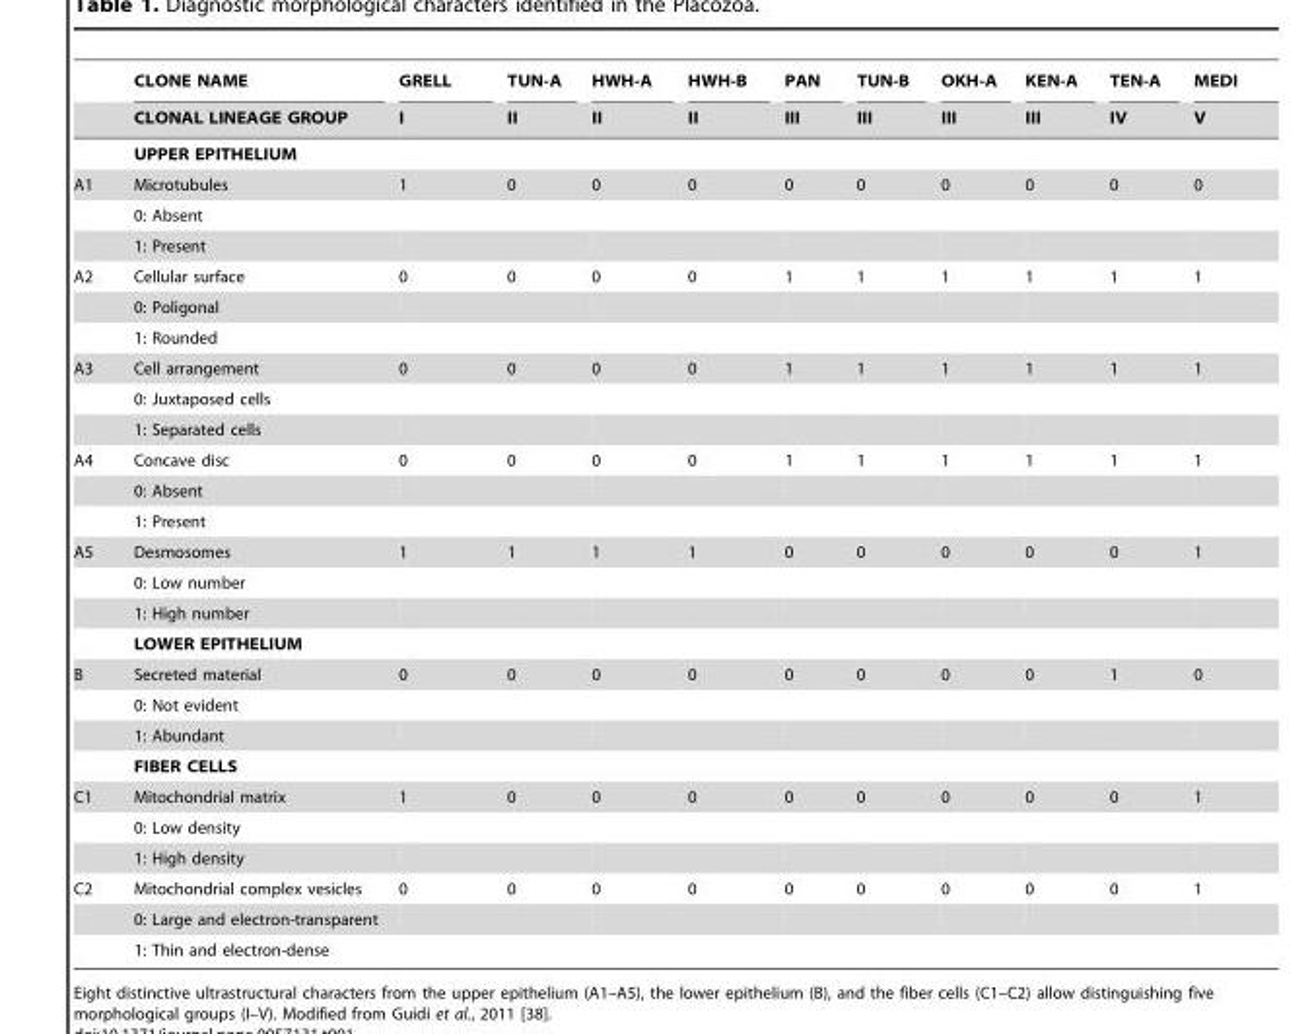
<table><thead><tr><td rowspan="2"></td><td rowspan="2">CLONE NAME CLONAL LINEAGE GROUP</td><td rowspan="2">GRELL I</td><td rowspan="2">TUN-A II</td><td rowspan="2">HWH-A II</td><td rowspan="2">HWH-B II</td><td rowspan="2">PAN III</td><td rowspan="2">TUN-B III</td><td rowspan="2">OKH-A III</td><td rowspan="2">KEN-A III</td><td rowspan="2">TEN-A IV</td><td rowspan="2">MEDI V</td></tr><tr></tr></thead><tbody><tr><td></td><td colspan="11">UPPER EPITHELIUM</td></tr><tr><td rowspan="3">A1</td><td>Microtubules</td><td>1</td><td>0</td><td>0</td><td>0</td><td>0</td><td>0</td><td>0</td><td>0</td><td>0</td><td>0</td></tr><tr><td>0: Absent</td><td></td><td></td><td></td><td></td><td></td><td></td><td></td><td></td><td></td><td></td></tr><tr><td>1: Present</td><td></td><td></td><td></td><td></td><td></td><td></td><td></td><td></td><td></td><td></td></tr><tr><td rowspan="3">A2</td><td>Cellular surface</td><td>0</td><td>0</td><td>0</td><td>0</td><td>1</td><td>1</td><td>1</td><td>1</td><td>1</td><td>1</td></tr><tr><td>0: Poligonal</td><td></td><td></td><td></td><td></td><td></td><td></td><td></td><td></td><td></td><td></td></tr><tr><td>1: Rounded</td><td></td><td></td><td></td><td></td><td></td><td></td><td></td><td></td><td></td><td></td></tr><tr><td rowspan="3">A3</td><td>Cell arrangement</td><td>0</td><td>0</td><td>0</td><td>0</td><td>1</td><td>1</td><td>1</td><td>1</td><td>1</td><td>1</td></tr><tr><td>0: Juxtaposed cells</td><td></td><td></td><td></td><td></td><td></td><td></td><td></td><td></td><td></td><td></td></tr><tr><td>1: Separated cells</td><td></td><td></td><td></td><td></td><td></td><td></td><td></td><td></td><td></td><td></td></tr><tr><td rowspan="3">A4</td><td>Concave disc</td><td>0</td><td>0</td><td>0</td><td>0</td><td>1</td><td>1</td><td>1</td><td>1</td><td>1</td><td>1</td></tr><tr><td>0: Absent</td><td></td><td></td><td></td><td></td><td></td><td></td><td></td><td></td><td></td><td></td></tr><tr><td>1: Present</td><td></td><td></td><td></td><td></td><td></td><td></td><td></td><td></td><td></td><td></td></tr><tr><td rowspan="4">A5</td><td>Desmosomes</td><td>1</td><td>1</td><td>1</td><td>1</td><td>0</td><td>0</td><td>0</td><td>0</td><td>0</td><td>1</td></tr><tr><td>0: Low number</td><td></td><td></td><td></td><td></td><td></td><td></td><td></td><td></td><td></td><td></td></tr><tr><td>1: High number</td><td></td><td></td><td></td><td></td><td></td><td></td><td></td><td></td><td></td><td></td></tr><tr><td colspan="11">LOWER EPITHELIUM</td></tr><tr><td rowspan="4">B</td><td>Secreted material</td><td>0</td><td>0</td><td>0</td><td>0</td><td>0</td><td>0</td><td>0</td><td>0</td><td>1</td><td>0</td></tr><tr><td>0: Not evident</td><td></td><td></td><td></td><td></td><td></td><td></td><td></td><td></td><td></td><td></td></tr><tr><td>1: Abundant</td><td></td><td></td><td></td><td></td><td></td><td></td><td></td><td></td><td></td><td></td></tr><tr><td colspan="11">FIBER CELLS</td></tr><tr><td rowspan="3">C1</td><td>Mitochondrial matrix</td><td>1</td><td>0</td><td>0</td><td>0</td><td>0</td><td>0</td><td>0</td><td>0</td><td>0</td><td>1</td></tr><tr><td>0: Low density</td><td></td><td></td><td></td><td></td><td></td><td></td><td></td><td></td><td></td><td></td></tr><tr><td>1: High density</td><td></td><td></td><td></td><td></td><td></td><td></td><td></td><td></td><td></td><td></td></tr><tr><td rowspan="3">C2</td><td>Mitochondrial complex vesicles</td><td>0</td><td>0</td><td>0</td><td>0</td><td>0</td><td>0</td><td>0</td><td>0</td><td>0</td><td>1</td></tr><tr><td>0: Large and electron-transparent</td><td></td><td></td><td></td><td></td><td></td><td></td><td></td><td></td><td></td><td></td></tr><tr><td>1: Thin and electron-dense</td><td></td><td></td><td></td><td></td><td></td><td></td><td></td><td></td><td></td><td></td></tr></tbody></table>